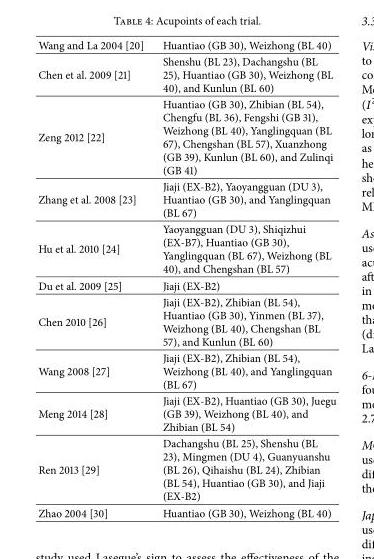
<table><tbody><tr><td>Wang and La 2004 [20]</td><td>Huantiao (GB 30), Weizhong (BL 40)</td></tr><tr><td>Chen et al. 2009 [21]</td><td>Shenshu (BL 23), Dachangshu (BL 25), Huantiao (GB 30), Weizhong (BL 40), and Kunlun (BL 60)</td></tr><tr><td>Zeng 2012 [22]</td><td>Huantiao (GB 30), Zhibian (BL 54), Chengfu (BL 36), Fengshi (GB 31), Weizhong (BL 40), Yanglingquan (BL 67), Chengshan (BL 57), Xuanzhong (GB 39), Kunlun (BL 60), and Zulinqi (GB 41)</td></tr><tr><td>Zhang et al. 2008 [23]</td><td>Jiaji (EX-B2), Yaoyangguan (DU 3), Huantiao (GB 30), and Yanglingquan (BL 67)</td></tr><tr><td>Hu et al. 2010 [24]</td><td>Yaoyangguan (DU 3), Shiqizhui (EX-B7), Huantiao (GB 30), Yanglingquan (BL 67), Weizhong (BL 40), and Chengshan (BL 57)</td></tr><tr><td>Du et al. 2009 [25]</td><td>Jiaji (EX-B2)</td></tr><tr><td>Chen 2010 [26]</td><td>Jiaji (EX-B2), Zhibian (BL 54), Huantiao (GB 30), Yinmen (BL 37), Weizhong (BL 40), Chengshan (BL 57), and Kunlun (BL 60)</td></tr><tr><td>Wang 2008 [27]</td><td>Jiaji (EX-B2), Zhibian (BL 54), Weizhong (BL 40), and Yanglingquan (BL 67)</td></tr><tr><td>Meng 2014 [28]</td><td>Jiaji (EX-B2), Huantiao (GB 30), Juegu (GB 39), Weizhong (BL 40), and Zhibian (BL 54)</td></tr><tr><td>Ren 2013 [29]</td><td>Dachangshu (BL 25), Shenshu (BL 23), Mingmen (DU 4), Guanyuanshu (BL 26), Qihaishu (BL 24), Zhibian (BL 54), Huantiao (GB 30), and Jiaji (EX-B2)</td></tr><tr><td>Zhao 2004 [30]</td><td>Huantiao (GB 30), Weizhong (BL 40)</td></tr></tbody></table>